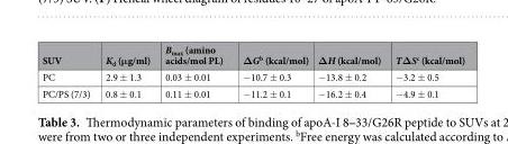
<table><thead><tr><td>SUV</td><td>K<sub>d</sub> (μg/ml)</td><td>B<sub>max</sub> (amino acids/mol PL)</td><td>ΔG<sup>b</sup> (kcal/mol)</td><td>ΔH (kcal/mol)</td><td>TΔS<sup>c</sup> (kcal/mol)</td></tr></thead><tbody><tr><td>PC</td><td>2.9 ± 1.3</td><td>0.03 ± 0.01</td><td>−10.7 ± 0.3</td><td>−13.8 ± 0.2</td><td>−3.2 ± 0.5</td></tr><tr><td>PC/PS (7/3)</td><td>0.8 ± 0.1</td><td>0.11 ± 0.01</td><td>−11.2 ± 0.1</td><td>−16.2 ± 0.4</td><td>−4.9 ± 0.1</td></tr></tbody></table>